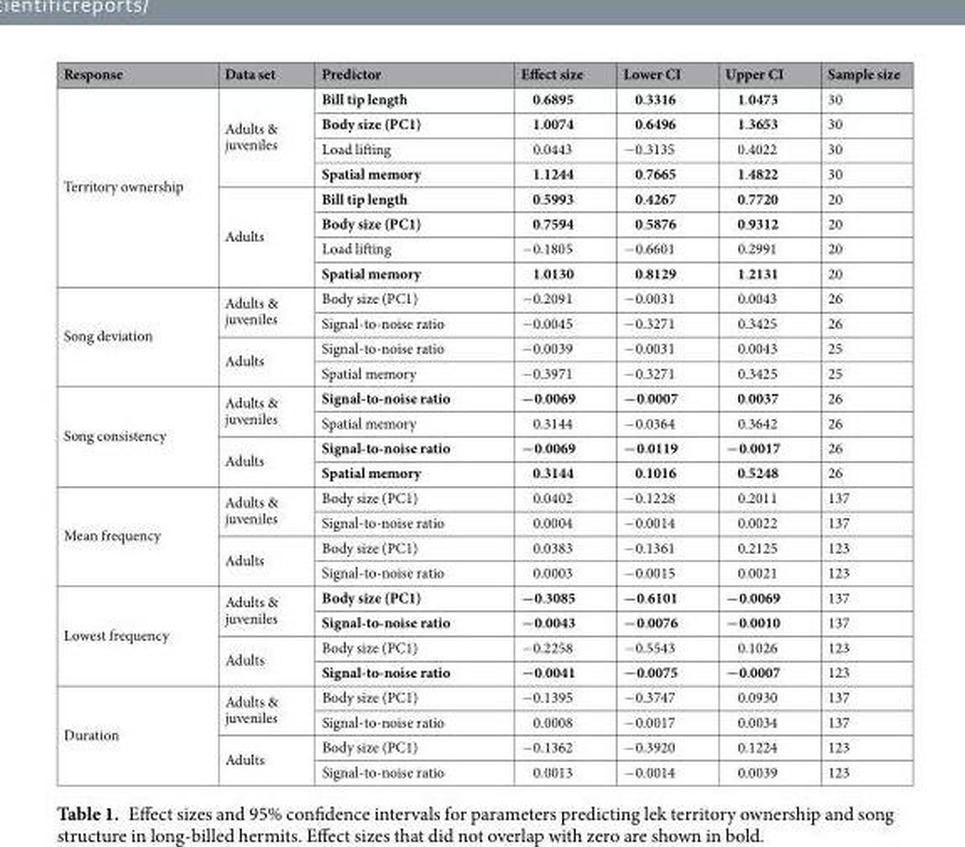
<table><thead><tr><td>Response</td><td>Data set</td><td>Predictor</td><td>Effect size</td><td>Lower CI</td><td>Upper CI</td><td>Sample size</td></tr></thead><tbody><tr><td rowspan="8">Territory ownership</td><td rowspan="4">Adults &amp; juveniles</td><td>Bill tip length</td><td>0.6895</td><td>0.3316</td><td>1.0473</td><td>30</td></tr><tr><td>Body size (PC1)</td><td>1.0074</td><td>0.6496</td><td>1.3653</td><td>30</td></tr><tr><td>Load lifting</td><td>0.0443</td><td>−0.3135</td><td>0.4022</td><td>30</td></tr><tr><td>Spatial memory</td><td>1.1244</td><td>0.7665</td><td>1.4822</td><td>30</td></tr><tr><td rowspan="4">Adults</td><td>Bill tip length</td><td>0.5993</td><td>0.4267</td><td>0.7720</td><td>20</td></tr><tr><td>Body size (PC1)</td><td>0.7594</td><td>0.5876</td><td>0.9312</td><td>20</td></tr><tr><td>Load lifting</td><td>−0.1805</td><td>−0.6601</td><td>0.2991</td><td>20</td></tr><tr><td>Spatial memory</td><td>1.0130</td><td>0.8129</td><td>1.2131</td><td>20</td></tr><tr><td rowspan="4">Song deviation</td><td rowspan="2">Adults &amp; juveniles</td><td>Body size (PC1)</td><td>−0.2091</td><td>−0.0031</td><td>0.0043</td><td>26</td></tr><tr><td>Signal-to-noise ratio</td><td>−0.0045</td><td>−0.3271</td><td>0.3425</td><td>26</td></tr><tr><td rowspan="2">Adults</td><td>Signal-to-noise ratio</td><td>−0.0039</td><td>−0.0031</td><td>0.0043</td><td>25</td></tr><tr><td>Spatial memory</td><td>−0.3971</td><td>−0.3271</td><td>0.3425</td><td>25</td></tr><tr><td rowspan="4">Song consistency</td><td rowspan="2">Adults &amp; juveniles</td><td>Signal-to-noise ratio</td><td>−0.0069</td><td>−0.0007</td><td>0.0037</td><td>26</td></tr><tr><td>Spatial memory</td><td>0.3144</td><td>−0.0364</td><td>0.3642</td><td>26</td></tr><tr><td rowspan="2">Adults</td><td>Signal-to-noise ratio</td><td>−0.0069</td><td>−0.0119</td><td>−0.0017</td><td>26</td></tr><tr><td>Spatial memory</td><td>0.3144</td><td>0.1016</td><td>0.5248</td><td>26</td></tr><tr><td rowspan="4">Mean frequency</td><td rowspan="2">Adults &amp; juveniles</td><td>Body size (PC1)</td><td>0.0402</td><td>−0.1228</td><td>0.2011</td><td>137</td></tr><tr><td>Signal-to-noise ratio</td><td>0.0004</td><td>−0.0014</td><td>0.0022</td><td>137</td></tr><tr><td rowspan="2">Adults</td><td>Body size (PC1)</td><td>0.0383</td><td>−0.1361</td><td>0.2125</td><td>123</td></tr><tr><td>Signal-to-noise ratio</td><td>0.0003</td><td>−0.0015</td><td>0.0021</td><td>123</td></tr><tr><td rowspan="4">Lowest frequency</td><td rowspan="2">Adults &amp; juveniles</td><td>Body size (PC1)</td><td>−0.3085</td><td>−0.6101</td><td>−0.0069</td><td>137</td></tr><tr><td>Signal-to-noise ratio</td><td>−0.0043</td><td>−0.0076</td><td>−0.0010</td><td>137</td></tr><tr><td rowspan="2">Adults</td><td>Body size (PC1)</td><td>−0.2258</td><td>−0.5543</td><td>0.1026</td><td>123</td></tr><tr><td>Signal-to-noise ratio</td><td>−0.0041</td><td>−0.0075</td><td>−0.0007</td><td>123</td></tr><tr><td rowspan="4">Duration</td><td rowspan="2">Adults &amp; juveniles</td><td>Body size (PC1)</td><td>−0.1395</td><td>−0.3747</td><td>0.0930</td><td>137</td></tr><tr><td>Signal-to-noise ratio</td><td>0.0008</td><td>−0.0017</td><td>0.0034</td><td>137</td></tr><tr><td rowspan="2">Adults</td><td>Body size (PC1)</td><td>−0.1362</td><td>−0.3920</td><td>0.1224</td><td>123</td></tr><tr><td>Signal-to-noise ratio</td><td>0.0013</td><td>−0.0014</td><td>0.0039</td><td>123</td></tr></tbody></table>